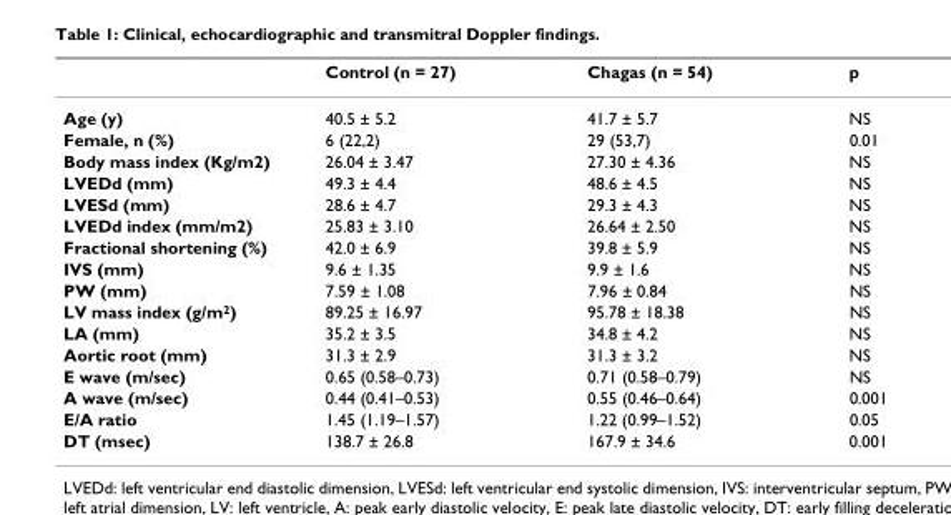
<table><thead><tr><td></td><td>Control (n = 27)</td><td>Chagas (n = 54)</td><td>p</td></tr></thead><tbody><tr><td>Age (y)</td><td>40.5 ± 5.2</td><td>41.7 ± 5.7</td><td>NS</td></tr><tr><td>Female, n (%)</td><td>6 (22,2)</td><td>29 (53,7)</td><td>0.01</td></tr><tr><td>Body mass index (Kg/m2)</td><td>26.04 ± 3.47</td><td>27.30 ± 4.36</td><td>NS</td></tr><tr><td>LVEDd (mm)</td><td>49.3 ± 4.4</td><td>48.6 ± 4.5</td><td>NS</td></tr><tr><td>LVESd (mm)</td><td>28.6 ± 4.7</td><td>29.3 ± 4.3</td><td>NS</td></tr><tr><td>LVEDd index (mm/m2)</td><td>25.83 ± 3.10</td><td>26.64 ± 2.50</td><td>NS</td></tr><tr><td>Fractional shortening (%)</td><td>42.0 ± 6.9</td><td>39.8 ± 5.9</td><td>NS</td></tr><tr><td>IVS (mm)</td><td>9.6 ± 1.35</td><td>9.9 ± 1.6</td><td>NS</td></tr><tr><td>PW (mm)</td><td>7.59 ± 1.08</td><td>7.96 ± 0.84</td><td>NS</td></tr><tr><td>LV mass index (g/m<sup>2</sup>)</td><td>89.25 ± 16.97</td><td>95.78 ± 18.38</td><td>NS</td></tr><tr><td>LA (mm)</td><td>35.2 ± 3.5</td><td>34.8 ± 4.2</td><td>NS</td></tr><tr><td>Aortic root (mm)</td><td>31.3 ± 2.9</td><td>31.3 ± 3.2</td><td>NS</td></tr><tr><td>E wave (m/sec)</td><td>0.65 (0.58–0.73)</td><td>0.71 (0.58–0.79)</td><td>NS</td></tr><tr><td>A wave (m/sec)</td><td>0.44 (0.41–0.53)</td><td>0.55 (0.46–0.64)</td><td>0.001</td></tr><tr><td>E/A ratio</td><td>1.45 (1.19–1.57)</td><td>1.22 (0.99–1.52)</td><td>0.05</td></tr><tr><td>DT (msec)</td><td>138.7 ± 26.8</td><td>167.9 ± 34.6</td><td>0.001</td></tr></tbody></table>